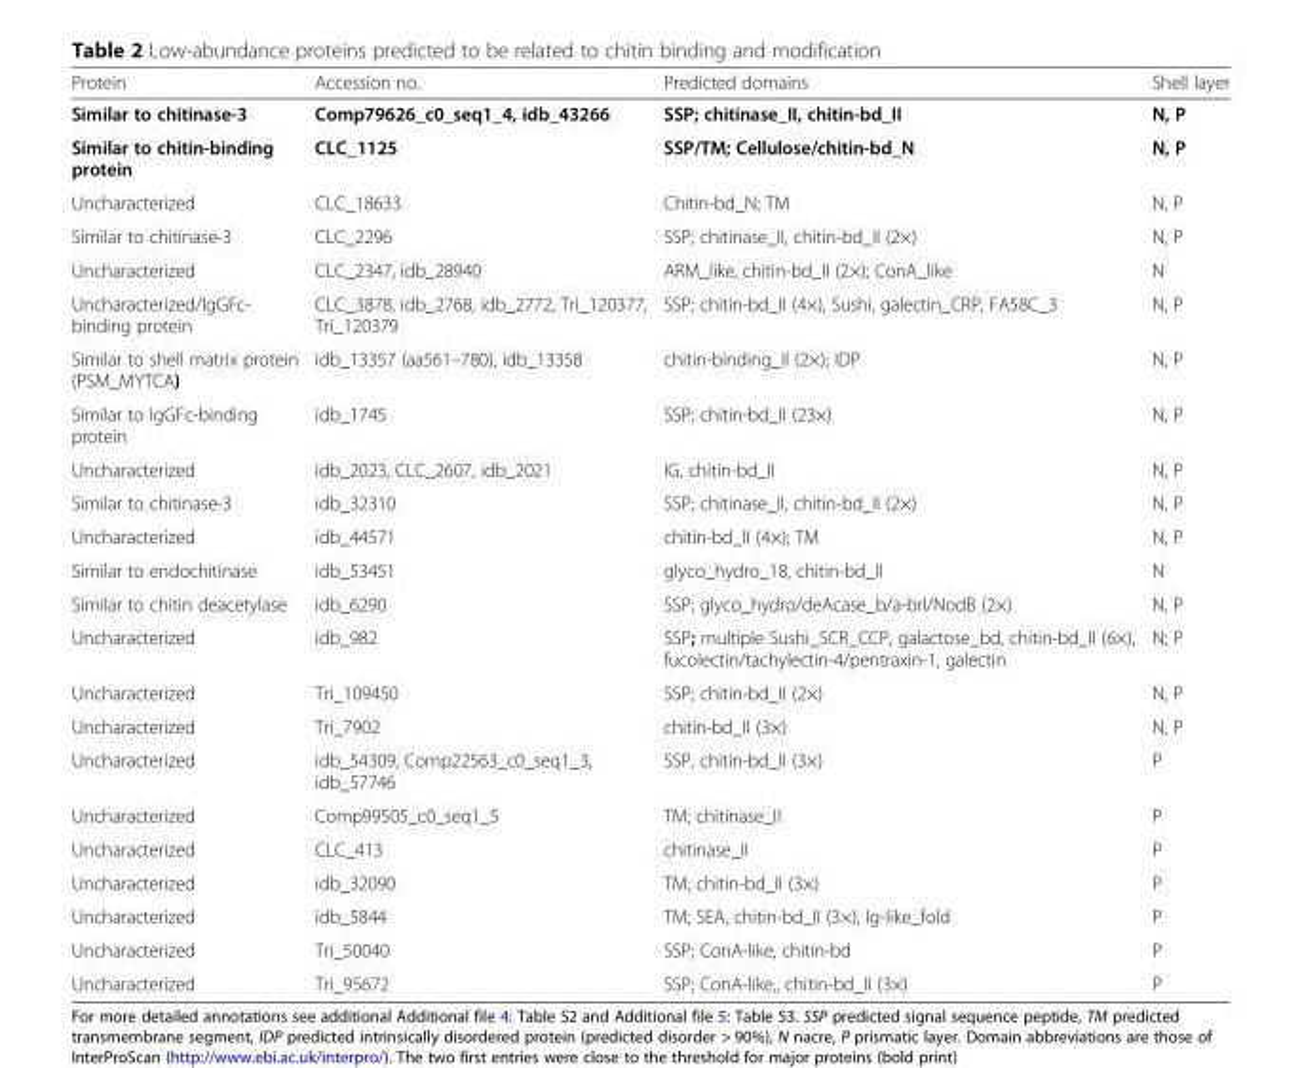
<table><thead><tr><td>Protein</td><td>Accession no.</td><td>Predicted domains</td><td>Shell layer</td></tr></thead><tbody><tr><td>Similar to chitinase-3</td><td>Comp79626_c0_seq1_4, idb_43266</td><td>SSP; chitinase_II, chitin-bd_II</td><td>N, P</td></tr><tr><td>Similar to chitin-binding protein</td><td>CLC_1125</td><td>SSP/TM; Cellulose/chitin-bd_N</td><td>N, P</td></tr><tr><td>Uncharacterized</td><td>CLC_18633</td><td>Chitin-bd_N; TM</td><td>N, P</td></tr><tr><td>Similar to chitinase-3</td><td>CLC_2296</td><td>SSP; chitinase_II, chitin-bd_II (2×)</td><td>N, P</td></tr><tr><td>Uncharacterized</td><td>CLC_2347, idb_28940</td><td>ARM_like, chitin-bd_II (2×); ConA_like</td><td>N</td></tr><tr><td>Uncharacterized/IgGFc- binding protein</td><td>CLC_3878, idb_2768, idb_2772, Tri_120377, Tri_120379</td><td>SSP; chitin-bd_II (4×), Sushi, galectin_CRP, FA58C_3</td><td>N, P</td></tr><tr><td>Similar to shell matrix protein (PSM_MYTCA)</td><td>idb_13357 (aa561–780), idb_13358</td><td>chitin-binding_II (2×); IDP</td><td>N, P</td></tr><tr><td>Similar to IgGFc-binding protein</td><td>idb_1745</td><td>SSP; chitin-bd_II (23×)</td><td>N, P</td></tr><tr><td>Uncharacterized</td><td>idb_2023, CLC_2607, idb_2021</td><td>IG, chitin-bd_II</td><td>N, P</td></tr><tr><td>Similar to chitinase-3</td><td>idb_32310</td><td>SSP; chitinase_II, chitin-bd_II (2×)</td><td>N, P</td></tr><tr><td>Uncharacterized</td><td>idb_44571</td><td>chitin-bd_II (4×); TM</td><td>N, P</td></tr><tr><td>Similar to endochitinase</td><td>idb_53451</td><td>glyco_hydro_18, chitin-bd_II</td><td>N</td></tr><tr><td>Similar to chitin deacetylase</td><td>idb_6290</td><td>SSP; glyco_hydro/deAcase_b/a-brl/NodB (2×)</td><td>N, P</td></tr><tr><td>Uncharacterized</td><td>idb_982</td><td>SSP; multiple Sushi_SCR_CCP, galactose_bd, chitin-bd_II (6×), fucolectin/tachylectin-4/pentraxin-1, galectin</td><td>N; P</td></tr><tr><td>Uncharacterized</td><td>Tri_109450</td><td>SSP; chitin-bd_II (2×)</td><td>N, P</td></tr><tr><td>Uncharacterized</td><td>Tri_7902</td><td>chitin-bd_II (3×)</td><td>N, P</td></tr><tr><td>Uncharacterized</td><td>idb_54309, Comp22563_c0_seq1_3, idb_57746</td><td>SSP, chitin-bd_II (3×)</td><td>P</td></tr><tr><td>Uncharacterized</td><td>Comp99505_c0_seq1_5</td><td>TM; chitinase_II</td><td>P</td></tr><tr><td>Uncharacterized</td><td>CLC_413</td><td>chitinase_II</td><td>P</td></tr><tr><td>Uncharacterized</td><td>idb_32090</td><td>TM; chitin-bd_II (3×)</td><td>P</td></tr><tr><td>Uncharacterized</td><td>idb_5844</td><td>TM; SEA, chitin-bd_II (3×), Ig-like_fold</td><td>P</td></tr><tr><td>Uncharacterized</td><td>Tri_50040</td><td>SSP; ConA-like, chitin-bd</td><td>P</td></tr><tr><td>Uncharacterized</td><td>Tri_95672</td><td>SSP; ConA-like,, chitin-bd_II (3×)</td><td>P</td></tr></tbody></table>